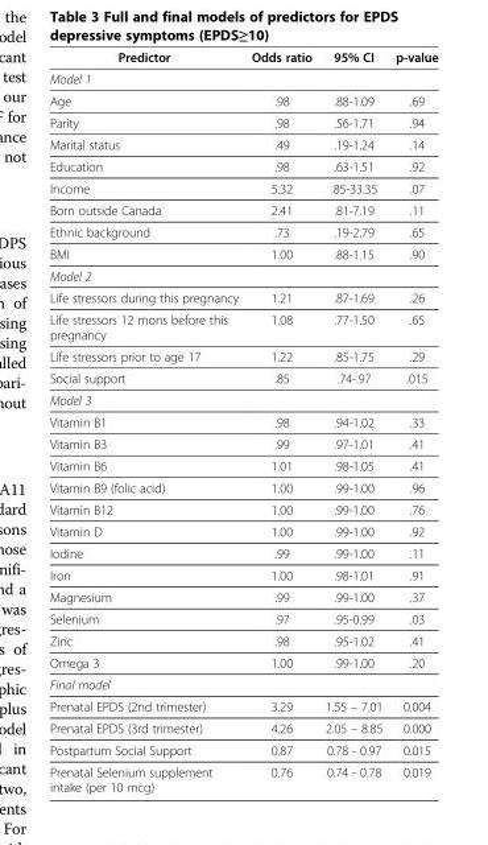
<table><thead><tr><td>Predictor</td><td>Odds ratio</td><td>95% CI</td><td>p-value</td></tr></thead><tbody><tr><td colspan="4">Model 1</td></tr><tr><td>Age</td><td>.98</td><td>.88-1.09</td><td>.69</td></tr><tr><td>Parity</td><td>.98</td><td>.56-1.71</td><td>.94</td></tr><tr><td>Marital status</td><td>.49</td><td>.19-1.24</td><td>.14</td></tr><tr><td>Education</td><td>.98</td><td>.63-1.51</td><td>.92</td></tr><tr><td>Income</td><td>5.32</td><td>.85-33.35</td><td>.07</td></tr><tr><td>Born outside Canada</td><td>2.41</td><td>.81-7.19</td><td>.11</td></tr><tr><td>Ethnic background</td><td>.73</td><td>.19-2.79</td><td>.65</td></tr><tr><td>BMI</td><td>1.00</td><td>.88-1.15</td><td>.90</td></tr><tr><td colspan="4">Model 2</td></tr><tr><td>Life stressors during this pregnancy</td><td>1.21</td><td>.87-1.69</td><td>.26</td></tr><tr><td>Life stressors 12 mons before this pregnancy</td><td>1.08</td><td>.77-1.50</td><td>.65</td></tr><tr><td>Life stressors prior to age 17</td><td>1.22</td><td>.85-1.75</td><td>.29</td></tr><tr><td>Social support</td><td>.85</td><td>.74-.97</td><td>.015</td></tr><tr><td colspan="4">Model 3</td></tr><tr><td>Vitamin B1</td><td>.98</td><td>.94-1.02</td><td>.33</td></tr><tr><td>Vitamin B3</td><td>.99</td><td>.97-1.01</td><td>.41</td></tr><tr><td>Vitamin B6</td><td>1.01</td><td>.98-1.05</td><td>.41</td></tr><tr><td>Vitamin B9 (folic acid)</td><td>1.00</td><td>.99-1.00</td><td>.96</td></tr><tr><td>Vitamin B12</td><td>1.00</td><td>.99-1.00</td><td>.76</td></tr><tr><td>Vitamin D</td><td>1.00</td><td>.99-1.00</td><td>.92</td></tr><tr><td>Iodine</td><td>.99</td><td>.99-1.00</td><td>.11</td></tr><tr><td>Iron</td><td>1.00</td><td>.98-1.01</td><td>.91</td></tr><tr><td>Magnesium</td><td>.99</td><td>.99-1.00</td><td>.37</td></tr><tr><td>Selenium</td><td>.97</td><td>.95-0.99</td><td>.03</td></tr><tr><td>Zinc</td><td>.98</td><td>.95-1.02</td><td>.41</td></tr><tr><td>Omega 3</td><td>1.00</td><td>.99-1.00</td><td>.20</td></tr><tr><td colspan="4">Final model</td></tr><tr><td>Prenatal EPDS (2nd trimester)</td><td>3.29</td><td>1.55 – 7.01</td><td>0.004</td></tr><tr><td>Prenatal EPDS (3rd trimester)</td><td>4.26</td><td>2.05 – 8.85</td><td>0.000</td></tr><tr><td>Postpartum Social Support</td><td>0.87</td><td>0.78 - 0.97</td><td>0.015</td></tr><tr><td>Prenatal Selenium supplement intake (per 10 mcg)</td><td>0.76</td><td>0.74 - 0.78</td><td>0.019</td></tr></tbody></table>